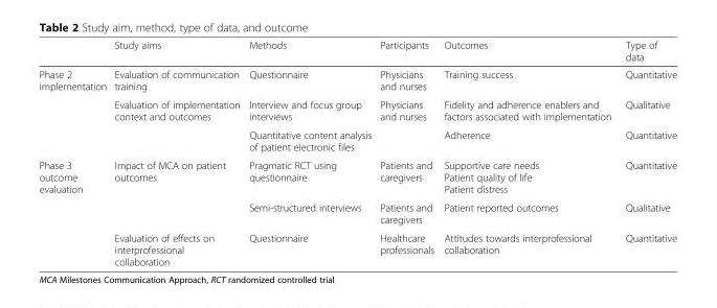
<table><thead><tr><td></td><td>Study aims</td><td>Methods</td><td>Participants</td><td>Outcomes</td><td>Type of data</td></tr></thead><tbody><tr><td rowspan="3">Phase 2 implementation</td><td>Evaluation of communication training</td><td>Questionnaire</td><td>Physicians and nurses</td><td>Training success</td><td>Quantitative</td></tr><tr><td rowspan="2">Evaluation of implementation context and outcomes</td><td>Interview and focus group interviews</td><td>Physicians and nurses</td><td>Fidelity and adherence enablers and factors associated with implementation</td><td>Qualitative</td></tr><tr><td>Quantitative content analysis of patient electronic files</td><td></td><td>Adherence</td><td>Quantitative</td></tr><tr><td rowspan="3">Phase 3 outcome evaluation</td><td rowspan="2">Impact of MCA on patient outcomes</td><td>Pragmatic RCT using questionnaire</td><td>Patients and caregivers</td><td>Supportive care needs Patient quality of life Patient distress</td><td>Quantitative</td></tr><tr><td>Semi-structured interviews</td><td>Patients and caregivers</td><td>Patient reported outcomes</td><td>Qualitative</td></tr><tr><td>Evaluation of effects on interprofessional collaboration</td><td>Questionnaire</td><td>Healthcare professionals</td><td>Attitudes towards interprofessional collaboration</td><td>Quantitative</td></tr></tbody></table>